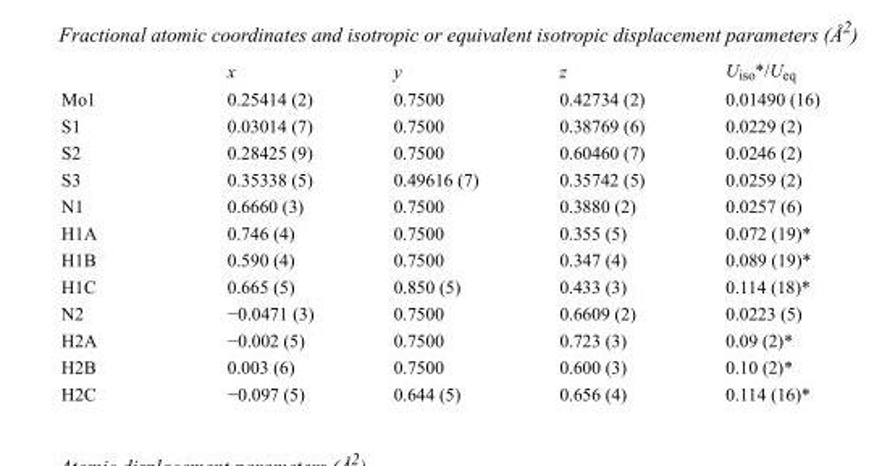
<table><thead><tr><td></td><td>x</td><td>y</td><td>z</td><td>U<sub>iso</sub>*/U<sub>eq</sub></td></tr></thead><tbody><tr><td>Mo1</td><td>0.25414 (2)</td><td>0.7500</td><td>0.42734 (2)</td><td>0.01490 (16)</td></tr><tr><td>S1</td><td>0.03014 (7)</td><td>0.7500</td><td>0.38769 (6)</td><td>0.0229 (2)</td></tr><tr><td>S2</td><td>0.28425 (9)</td><td>0.7500</td><td>0.60460 (7)</td><td>0.0246 (2)</td></tr><tr><td>S3</td><td>0.35338 (5)</td><td>0.49616 (7)</td><td>0.35742 (5)</td><td>0.0259 (2)</td></tr><tr><td>N1</td><td>0.6660 (3)</td><td>0.7500</td><td>0.3880 (2)</td><td>0.0257 (6)</td></tr><tr><td>H1A</td><td>0.746 (4)</td><td>0.7500</td><td>0.355 (5)</td><td>0.072 (19)*</td></tr><tr><td>H1B</td><td>0.590 (4)</td><td>0.7500</td><td>0.347 (4)</td><td>0.089 (19)*</td></tr><tr><td>H1C</td><td>0.665 (5)</td><td>0.850 (5)</td><td>0.433 (3)</td><td>0.114 (18)*</td></tr><tr><td>N2</td><td>−0.0471 (3)</td><td>0.7500</td><td>0.6609 (2)</td><td>0.0223 (5)</td></tr><tr><td>H2A</td><td>−0.002 (5)</td><td>0.7500</td><td>0.723 (3)</td><td>0.09 (2)*</td></tr><tr><td>H2B</td><td>0.003 (6)</td><td>0.7500</td><td>0.600 (3)</td><td>0.10 (2)*</td></tr><tr><td>H2C</td><td>−0.097 (5)</td><td>0.644 (5)</td><td>0.656 (4)</td><td>0.114 (16)*</td></tr></tbody></table>